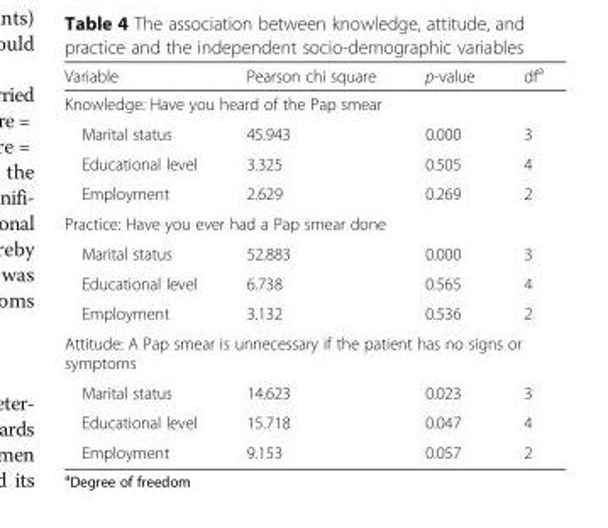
<table><thead><tr><td>Variable</td><td>Pearson chi square</td><td>p-value</td><td>df<sup>a</sup></td></tr></thead><tbody><tr><td colspan="4">Knowledge: Have you heard of the Pap smear</td></tr><tr><td>Marital status</td><td>45.943</td><td>0.000</td><td>3</td></tr><tr><td>Educational level</td><td>3.325</td><td>0.505</td><td>4</td></tr><tr><td>Employment</td><td>2.629</td><td>0.269</td><td>2</td></tr><tr><td colspan="4">Practice: Have you ever had a Pap smear done</td></tr><tr><td>Marital status</td><td>52.883</td><td>0.000</td><td>3</td></tr><tr><td>Educational level</td><td>6.738</td><td>0.565</td><td>4</td></tr><tr><td>Employment</td><td>3.132</td><td>0.536</td><td>2</td></tr><tr><td colspan="4">Attitude: A Pap smear is unnecessary if the patient has no signs or symptoms</td></tr><tr><td>Marital status</td><td>14.623</td><td>0.023</td><td>3</td></tr><tr><td>Educational level</td><td>15.718</td><td>0.047</td><td>4</td></tr><tr><td>Employment</td><td>9.153</td><td>0.057</td><td>2</td></tr></tbody></table>